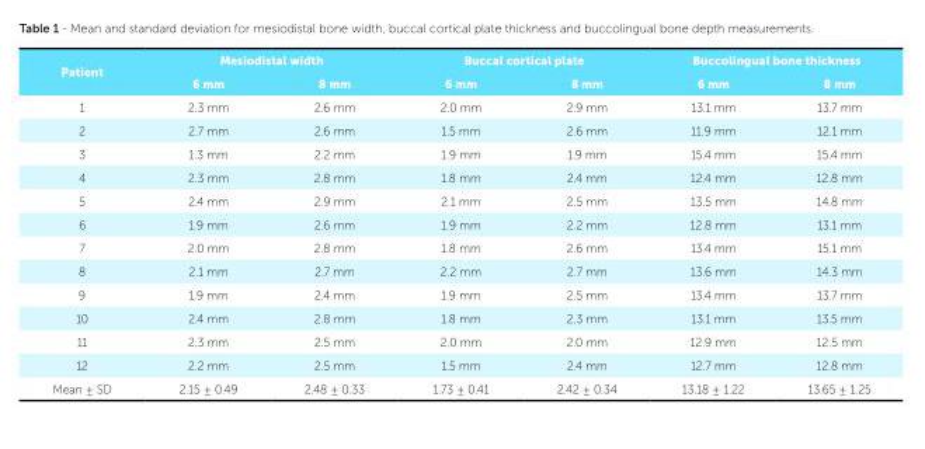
<table><thead><tr><td rowspan="2">Patient</td><td colspan="2">Mesiodistal width</td><td colspan="2">Buccal cortical plate</td><td colspan="2">Buccolingual bone thickness</td></tr><tr><td>6 mm</td><td>8 mm</td><td>6 mm</td><td>8 mm</td><td>6 mm</td><td>8 mm</td></tr></thead><tbody><tr><td>1</td><td>2.3 mm</td><td>2.6 mm</td><td>2.0 mm</td><td>2.9 mm</td><td>13.1 mm</td><td>13.7 mm</td></tr><tr><td>2</td><td>2.7 mm</td><td>2.6 mm</td><td>1.5 mm</td><td>2.6 mm</td><td>11.9 mm</td><td>12.1 mm</td></tr><tr><td>3</td><td>1.3 mm</td><td>2.2 mm</td><td>1.9 mm</td><td>1.9 mm</td><td>15.4 mm</td><td>15.4 mm</td></tr><tr><td>4</td><td>2.3 mm</td><td>2.8 mm</td><td>1.8 mm</td><td>2.4 mm</td><td>12.4 mm</td><td>12.8 mm</td></tr><tr><td>5</td><td>2.4 mm</td><td>2.9 mm</td><td>2.1 mm</td><td>2.5 mm</td><td>13.5 mm</td><td>14.8 mm</td></tr><tr><td>6</td><td>1.9 mm</td><td>2.6 mm</td><td>1.9 mm</td><td>2.2 mm</td><td>12.8 mm</td><td>13.1 mm</td></tr><tr><td>7</td><td>2.0 mm</td><td>2.8 mm</td><td>1.8 mm</td><td>2.6 mm</td><td>13.4 mm</td><td>15.1 mm</td></tr><tr><td>8</td><td>2.1 mm</td><td>2.7 mm</td><td>2.2 mm</td><td>2.7 mm</td><td>13.6 mm</td><td>14.3 mm</td></tr><tr><td>9</td><td>1.9 mm</td><td>2.4 mm</td><td>1.9 mm</td><td>2.5 mm</td><td>13.4 mm</td><td>13.7 mm</td></tr><tr><td>10</td><td>2.4 mm</td><td>2.8 mm</td><td>1.8 mm</td><td>2.3 mm</td><td>13.1 mm</td><td>13.5 mm</td></tr><tr><td>11</td><td>2.3 mm</td><td>2.5 mm</td><td>2.0 mm</td><td>2.0 mm</td><td>12.9 mm</td><td>12.5 mm</td></tr><tr><td>12</td><td>2.2 mm</td><td>2.5 mm</td><td>1.5 mm</td><td>2.4 mm</td><td>12.7 mm</td><td>12.8 mm</td></tr><tr><td>Mean ± SD</td><td>2.15 ± 0.49</td><td>2.48 ± 0.33</td><td>1.73 ± 0.41</td><td>2.42 ± 0.34</td><td>13.18 ± 1.22</td><td>13.65 ± 1.25</td></tr></tbody></table>